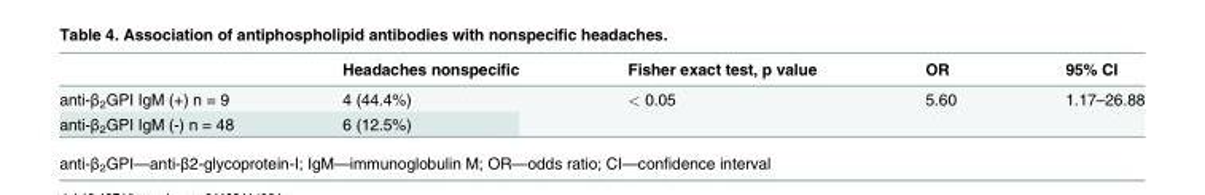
<table><thead><tr><td></td><td>Headaches nonspecific</td><td>Fisher exact test, p value</td><td>OR</td><td>95% CI</td></tr></thead><tbody><tr><td>anti-β<sub>2</sub>GPI IgM (+) n = 9</td><td>4 (44.4%)</td><td rowspan="2">&lt; 0.05</td><td rowspan="2">5.60</td><td rowspan="2">1.17–26.88</td></tr><tr><td>anti-β<sub>2</sub>GPI IgM (-) n = 48</td><td>6 (12.5%)</td></tr></tbody></table>